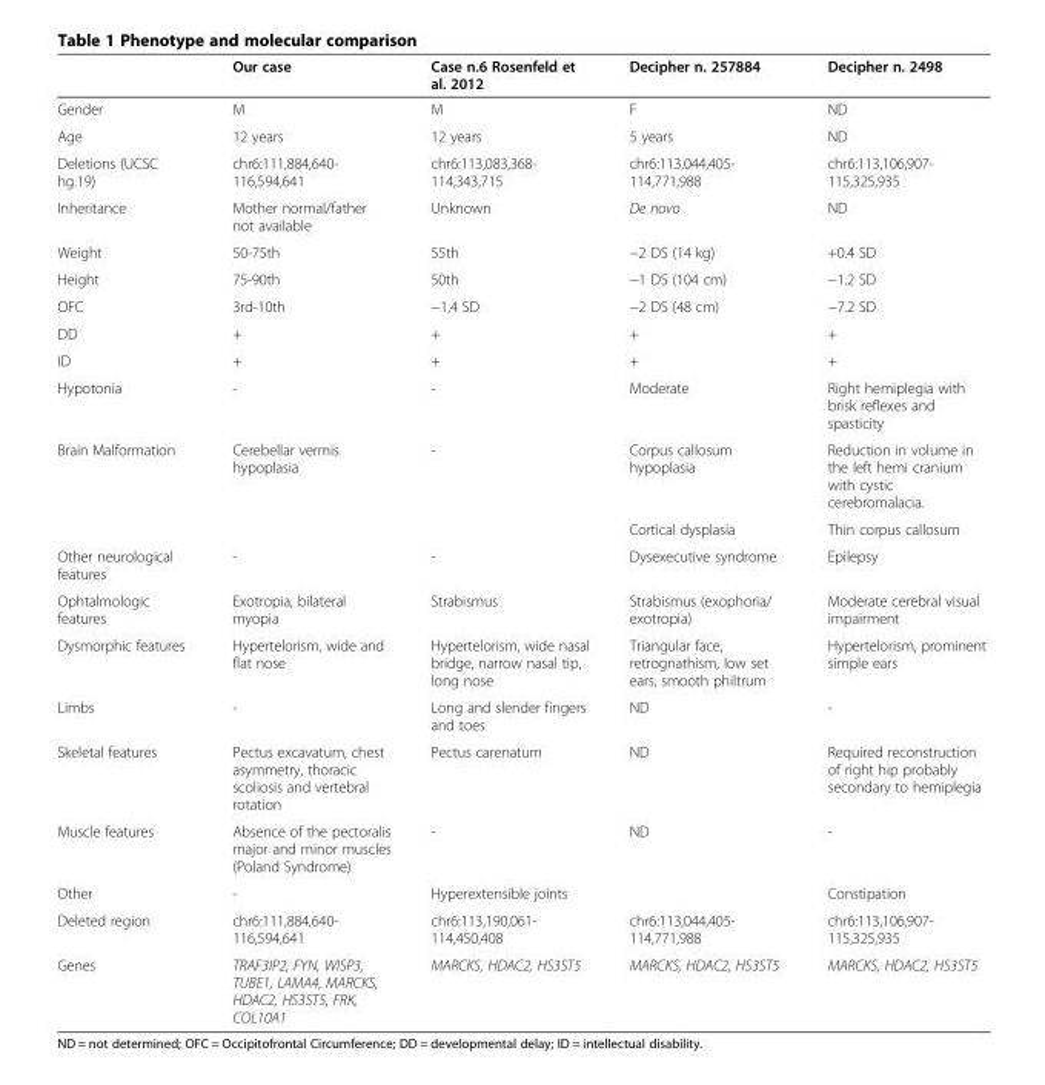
<table><thead><tr><td></td><td>Our case</td><td>Case n.6 Rosenfeld et al. 2012</td><td>Decipher n. 257884</td><td>Decipher n. 2498</td></tr></thead><tbody><tr><td>Gender</td><td>M</td><td>M</td><td>F</td><td>ND</td></tr><tr><td>Age</td><td>12 years</td><td>12 years</td><td>5 years</td><td>ND</td></tr><tr><td>Deletions (UCSC hg.19)</td><td>chr6:111,884,640- 116,594,641</td><td>chr6:113,083,368- 114,343,715</td><td>chr6:113,044,405- 114,771,988</td><td>chr6:113,106,907- 115,325,935</td></tr><tr><td>Inheritance</td><td>Mother normal/father not available</td><td>Unknown</td><td>De novo</td><td>ND</td></tr><tr><td>Weight</td><td>50-75th</td><td>55th</td><td>−2 DS (14 kg)</td><td>+0.4 SD</td></tr><tr><td>Height</td><td>75-90th</td><td>50th</td><td>−1 DS (104 cm)</td><td>−1.2 SD</td></tr><tr><td>OFC</td><td>3rd-10th</td><td>−1,4 SD</td><td>−2 DS (48 cm)</td><td>−7.2 SD</td></tr><tr><td>DD</td><td>+</td><td>+</td><td>+</td><td>+</td></tr><tr><td>ID</td><td>+</td><td>+</td><td>+</td><td>+</td></tr><tr><td>Hypotonia</td><td>-</td><td>-</td><td>Moderate</td><td>Right hemiplegia with brisk reflexes and spasticity</td></tr><tr><td rowspan="2">Brain Malformation</td><td rowspan="2">Cerebellar vermis hypoplasia</td><td rowspan="2">-</td><td>Corpus callosum hypoplasia</td><td>Reduction in volume in the left hemi cranium with cystic cerebromalacia.</td></tr><tr><td>Cortical dysplasia</td><td>Thin corpus callosum</td></tr><tr><td>Other neurological features</td><td>-</td><td>-</td><td>Dysexecutive syndrome</td><td>Epilepsy</td></tr><tr><td>Ophtalmologic features</td><td>Exotropia, bilateral myopia</td><td>Strabismus</td><td>Strabismus (exophoria/ exotropia)</td><td>Moderate cerebral visual impairment</td></tr><tr><td>Dysmorphic features</td><td>Hypertelorism, wide and flat nose</td><td>Hypertelorism, wide nasal bridge, narrow nasal tip, long nose</td><td>Triangular face, retrognathism, low set ears, smooth philtrum</td><td>Hypertelorism, prominent simple ears</td></tr><tr><td>Limbs</td><td>-</td><td>Long and slender fingers and toes</td><td>ND</td><td>-</td></tr><tr><td>Skeletal features</td><td>Pectus excavatum, chest asymmetry, thoracic scoliosis and vertebral rotation</td><td>Pectus carenatum</td><td>ND</td><td>Required reconstruction of right hip probably secondary to hemiplegia</td></tr><tr><td>Muscle features</td><td>Absence of the pectoralis major and minor muscles (Poland Syndrome)</td><td>-</td><td>ND</td><td>-</td></tr><tr><td>Other</td><td>-</td><td>Hyperextensible joints</td><td></td><td>Constipation</td></tr><tr><td>Deleted region</td><td>chr6:111,884,640- 116,594,641</td><td>chr6:113,190,061- 114,450,408</td><td>chr6:113,044,405- 114,771,988</td><td>chr6:113,106,907- 115,325,935</td></tr><tr><td>Genes</td><td>TRAF3IP2, FYN, WISP3, TUBE1, LAMA4, MARCKS, HDAC2, HS3ST5, FRK, COL10A1</td><td>MARCKS, HDAC2, HS3ST5</td><td>MARCKS, HDAC2, HS3ST5</td><td>MARCKS, HDAC2, HS3ST5</td></tr></tbody></table>